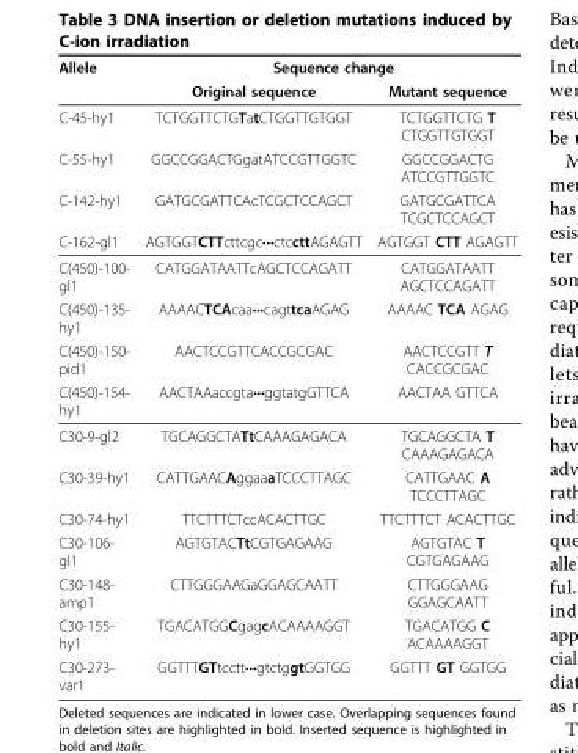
<table><thead><tr><td rowspan="2">Allele</td><td colspan="2">Sequence change</td></tr><tr><td>Original sequence</td><td>Mutant sequence</td></tr></thead><tbody><tr><td>C-45-hy1</td><td>TCTGGTTCTGTatCTGGTTGTGGT</td><td>TCTGGTTCTG T CTGGTTGTGGT</td></tr><tr><td>C-55-hy1</td><td>GGCCGGACTGgatATCCGTTGGTC</td><td>GGCCGGACTG ATCCGTTGGTC</td></tr><tr><td>C-142-hy1</td><td>GATGCGATTCAcTCGCTCCAGCT</td><td>GATGCGATTCA TCGCTCCAGCT</td></tr><tr><td>C-162-gl1</td><td>AGTGGTCTTcttcgc•••ctccttAGAGTT</td><td>AGTGGT CTT AGAGTT</td></tr><tr><td>C(450)-100- gl1</td><td>CATGGATAATTcAGCTCCAGATT</td><td>CATGGATAATT AGCTCCAGATT</td></tr><tr><td>C(450)-135- hy1</td><td>AAAACTCAcaa•••cagttcaAGAG</td><td>AAAAC TCA AGAG</td></tr><tr><td>C(450)-150- pid1</td><td>AACTCCGTTCACCGCGAC</td><td>AACTCCGTT T CACCGCGAC</td></tr><tr><td>C(450)-154- hy1</td><td>AACTAAaccgta•••ggtatgGTTCA</td><td>AACTAA GTTCA</td></tr><tr><td>C30-9-gl2</td><td>TGCAGGCTATtCAAAGAGACA</td><td>TGCAGGCTA T CAAAGAGACA</td></tr><tr><td>C30-39-hy1</td><td>CATTGAACAggaaaTCCCTTAGC</td><td>CATTGAAC A TCCCTTAGC</td></tr><tr><td>C30-74-hy1</td><td>TTCTTTCTccACACTTGC</td><td>TTCTTTCT ACACTTGC</td></tr><tr><td>C30-106- gl1</td><td>AGTGTACTtCGTGAGAAG</td><td>AGTGTAC T CGTGAGAAG</td></tr><tr><td>C30-148- amp1</td><td>CTTGGGAAGaGGAGCAATT</td><td>CTTGGGAAG GGAGCAATT</td></tr><tr><td>C30-155- hy1</td><td>TGACATGGCgagcACAAAAGGT</td><td>TGACATGG C ACAAAAGGT</td></tr><tr><td>C30-273- var1</td><td>GGTTTGTtcctt•••gtctggtGGTGG</td><td>GGTTT GT GGTGG</td></tr></tbody></table>